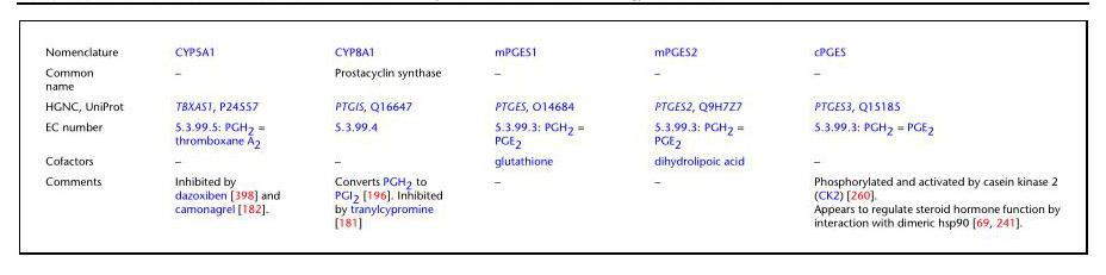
<table><tbody><tr><td>Nomenclature</td><td>CYP5A1</td><td>CYP8A1</td><td>mPGES1</td><td>mPGES2</td><td>cPGES</td></tr><tr><td>Common name</td><td>–</td><td>Prostacyclin synthase</td><td>–</td><td>–</td><td>–</td></tr><tr><td>HGNC, UniProt</td><td>TBXAS1, P24557</td><td>PTGIS, Q16647</td><td>PTGES, O14684</td><td>PTGES2, Q9H7Z7</td><td>PTGES3, Q15185</td></tr><tr><td>EC number</td><td>5.3.99.5: PGH<sub>2</sub> = thromboxane A<sub>2</sub></td><td>5.3.99.4</td><td>5.3.99.3: PGH<sub>2</sub> = PGE<sub>2</sub></td><td>5.3.99.3: PGH<sub>2</sub> = PGE<sub>2</sub></td><td>5.3.99.3: PGH<sub>2</sub> = PGE<sub>2</sub></td></tr><tr><td>Cofactors</td><td>–</td><td>–</td><td>glutathione</td><td>dihydrolipoic acid</td><td>–</td></tr><tr><td>Comments</td><td>Inhibited by dazoxiben [398] and camonagrel [182].</td><td>Converts PGH<sub>2</sub> to PGI<sub>2</sub> [196]. Inhibited by tranylcypromine [181]</td><td>–</td><td>–</td><td>Phosphorylated and activated by casein kinase 2 (CK2) [260]. Appears to regulate steroid hormone function by interaction with dimeric hsp90 [69, 241].</td></tr></tbody></table>